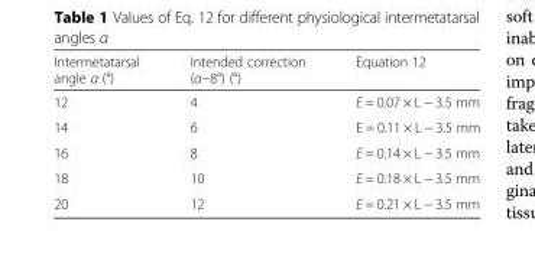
<table><thead><tr><td>Intermetatarsal angle α (°)</td><td>Intended correction (α−8°) (°)</td><td>Equation 12</td></tr></thead><tbody><tr><td>12</td><td>4</td><td>E = 0.07 × L − 3.5 mm</td></tr><tr><td>14</td><td>6</td><td>E = 0.11 × L − 3.5 mm</td></tr><tr><td>16</td><td>8</td><td>E = 0.14 × L − 3.5 mm</td></tr><tr><td>18</td><td>10</td><td>E = 0.18 × L − 3.5 mm</td></tr><tr><td>20</td><td>12</td><td>E = 0.21 × L − 3.5 mm</td></tr></tbody></table>